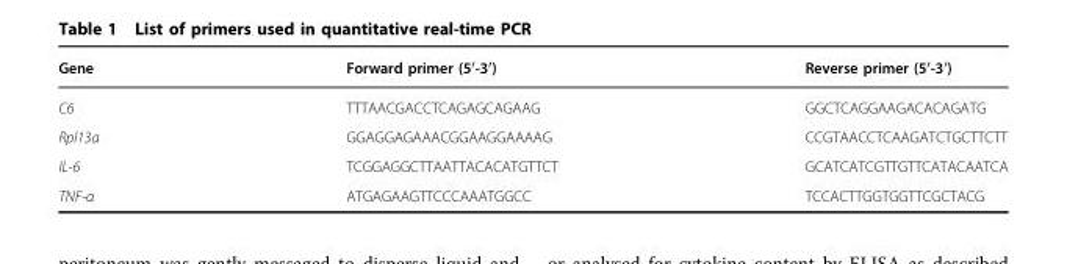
<table><thead><tr><td>Gene</td><td>Forward primer (5′-3′)</td><td>Reverse primer (5′-3′)</td></tr></thead><tbody><tr><td>C6</td><td>TTTAACGACCTCAGAGCAGAAG</td><td>GGCTCAGGAAGACACAGATG</td></tr><tr><td>Rpl13a</td><td>GGAGGAGAAACGGAAGGAAAAG</td><td>CCGTAACCTCAAGATCTGCTTCTT</td></tr><tr><td>IL-6</td><td>TCGGAGGCTTAATTACACATGTTCT</td><td>GCATCATCGTTGTTCATACAATCA</td></tr><tr><td>TNF-α</td><td>ATGAGAAGTTCCCAAATGGCC</td><td>TCCACTTGGTGGTTCGCTACG</td></tr></tbody></table>